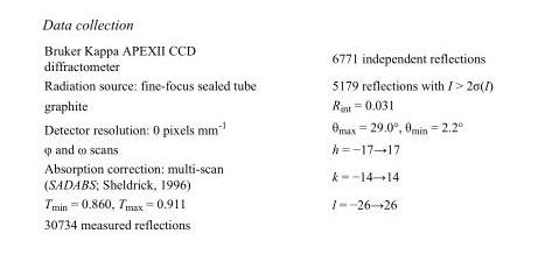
<table><tbody><tr><td>Bruker Kappa APEXII CCD diffractometer</td><td>6771 independent reflections</td></tr><tr><td>Radiation source: fine-focus sealed tube</td><td>5179 reflections with I &gt; 2σ(I)</td></tr><tr><td>graphite</td><td>R<sub>int</sub> = 0.031</td></tr><tr><td>Detector resolution: 0 pixels mm<sup>-1</sup></td><td>θ<sub>max</sub> = 29.0°, θ<sub>min</sub> = 2.2°</td></tr><tr><td>φ and ω scans</td><td>h = −17→17</td></tr><tr><td>Absorption correction: multi-scan (SADABS; Sheldrick, 1996)</td><td>k = −14→14</td></tr><tr><td>T<sub>min</sub> = 0.860, T<sub>max</sub> = 0.911</td><td>l = −26→26</td></tr><tr><td>30734 measured reflections</td><td></td></tr></tbody></table>